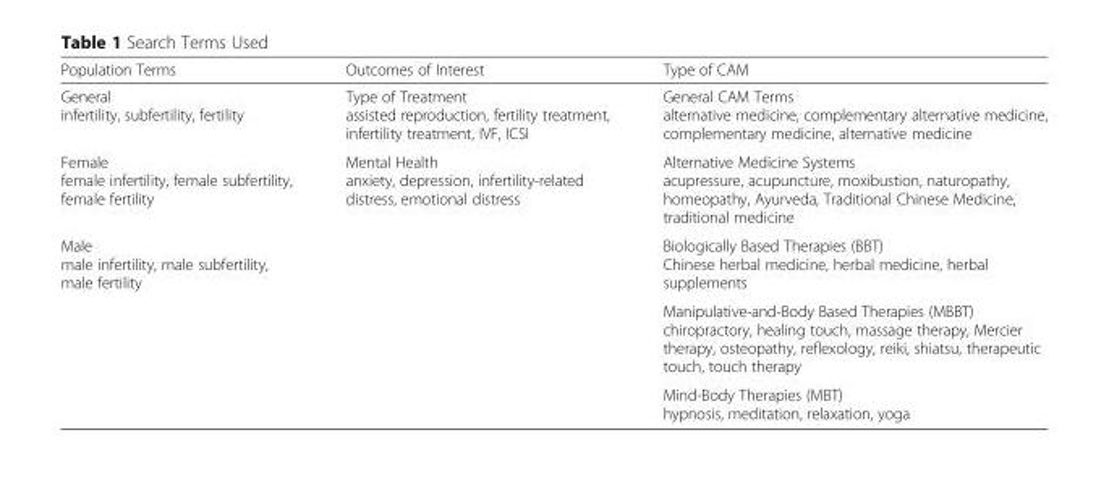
<table><thead><tr><td>Population Terms</td><td>Outcomes of Interest</td><td>Type of CAM</td></tr></thead><tbody><tr><td>General infertility, subfertility, fertility</td><td>Type of Treatment assisted reproduction, fertility treatment, infertility treatment, IVF, ICSI</td><td>General CAM Terms alternative medicine, complementary alternative medicine, complementary medicine, alternative medicine</td></tr><tr><td>Female female infertility, female subfertility, female fertility</td><td>Mental Health anxiety, depression, infertility-related distress, emotional distress</td><td>Alternative Medicine Systems acupressure, acupuncture, moxibustion, naturopathy, homeopathy, Ayurveda, Traditional Chinese Medicine, traditional medicine</td></tr><tr><td rowspan="3">Male male infertility, male subfertility, male fertility</td><td></td><td>Biologically Based Therapies (BBT) Chinese herbal medicine, herbal medicine, herbal supplements</td></tr><tr><td></td><td>Manipulative-and-Body Based Therapies (MBBT) chiropractory, healing touch, massage therapy, Mercier therapy, osteopathy, reflexology, reiki, shiatsu, therapeutic touch, touch therapy</td></tr><tr><td></td><td>Mind-Body Therapies (MBT) hypnosis, meditation, relaxation, yoga</td></tr></tbody></table>